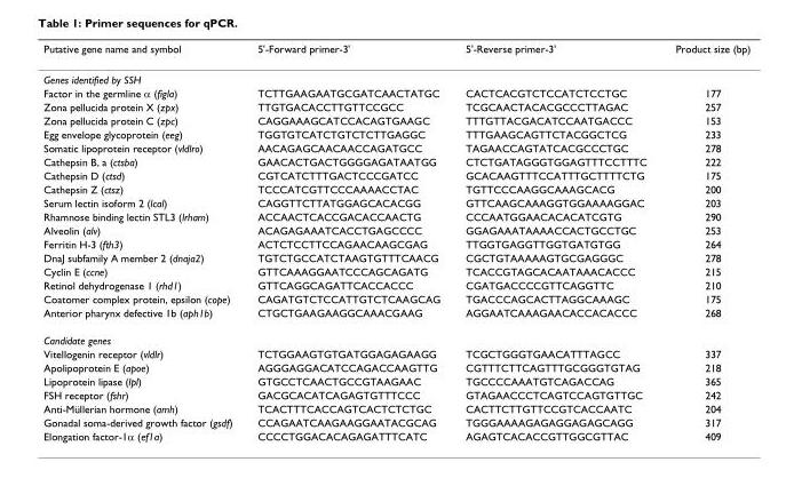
<table><thead><tr><td>Putative gene name and symbol</td><td>5&#x27;-Forward primer-3&#x27;</td><td>5&#x27;-Reverse primer-3&#x27;</td><td>Product size (bp)</td></tr></thead><tbody><tr><td colspan="4">Genes identified by SSH</td></tr><tr><td>Factor in the germline α (figla)</td><td>TCTTGAAGAATGCGATCAACTATGC</td><td>CACTCACGTCTCCATCTCCTGC</td><td>177</td></tr><tr><td>Zona pellucida protein X (zpx)</td><td>TTGTGACACCTTGTTCCGCC</td><td>TCGCAACTACACGCCCTTAGAC</td><td>257</td></tr><tr><td>Zona pellucida protein C (zpc)</td><td>CAGGAAAGCATCCACAGTGAAGC</td><td>TTTGTTACGACATCCAATGACCC</td><td>153</td></tr><tr><td>Egg envelope glycoprotein (eeg)</td><td>TGGTGTCATCTGTCTCTTGAGGC</td><td>TTTGAAGCAGTTCTACGGCTCG</td><td>233</td></tr><tr><td>Somatic lipoprotein receptor (vldlro)</td><td>AACAGAGCAACAACCAGATGCC</td><td>TAGAACCAGTATCACGCCCTGC</td><td>278</td></tr><tr><td>Cathepsin B, a (ctsba)</td><td>GAACACTGACTGGGGAGATAATGG</td><td>CTCTGATAGGGTGGAGTTTCCTTTC</td><td>222</td></tr><tr><td>Cathepsin D (ctsd)</td><td>CGTCATCTTTGACTCCCGATCC</td><td>GCACAAGTTTCCATTTGCTTTTCTG</td><td>175</td></tr><tr><td>Cathepsin Z (ctsz)</td><td>TCCCATCGTTCCCAAAACCTAC</td><td>TGTTCCCAAGGCAAAGCACG</td><td>200</td></tr><tr><td>Serum lectin isoform 2 (lcal)</td><td>CAGGTTCTTATGGAGCACACGG</td><td>GTTCAAGCAAAGGTGGAAAAGGAC</td><td>203</td></tr><tr><td>Rhamnose binding lectin STL3 (lrham)</td><td>ACCAACTCACCGACACCAACTG</td><td>CCCAATGGAACACACATCGTG</td><td>290</td></tr><tr><td>Alveolin (alv)</td><td>ACAGAGAAATCACCTGAGCCCC</td><td>GGAGAAATAAAACCACTGCCTGC</td><td>253</td></tr><tr><td>Ferritin H-3 (fth3)</td><td>ACTCTCCTTCCAGAACAAGCGAG</td><td>TTGGTGAGGTTGGTGATGTGG</td><td>264</td></tr><tr><td>DnaJ subfamily A member 2 (dnaja2)</td><td>TGTCTGCCATCTAAGTGTTTCAACG</td><td>CGCTGTAAAAAGTGCGAGGGC</td><td>278</td></tr><tr><td>Cyclin E (ccne)</td><td>GTTCAAAGGAATCCCAGCAGATG</td><td>TCACCGTAGCACAATAAACACCC</td><td>215</td></tr><tr><td>Retinol dehydrogenase 1 (rhd1)</td><td>GTTCAGGCAGATTCACCACCC</td><td>CGATGACCCCGTTCAGGTTC</td><td>210</td></tr><tr><td>Coatomer complex protein, epsilon (cope)</td><td>CAGATGTCTCCATTGTCTCAAGCAG</td><td>TGACCCAGCACTTAGGCAAAGC</td><td>175</td></tr><tr><td>Anterior pharynx defective 1b (aph1b)</td><td>CTGCTGAAGAAGGCAAACGAAG</td><td>AGGAATCAAAGAACACCACACCC</td><td>268</td></tr><tr><td colspan="4">Candidate genes</td></tr><tr><td>Vitellogenin receptor (vldlr)</td><td>TCTGGAAGTGTGATGGAGAGAAGG</td><td>TCGCTGGGTGAACATTTAGCC</td><td>337</td></tr><tr><td>Apolipoprotein E (apoe)</td><td>AGGGAGGACATCCAGACCAAGTTG</td><td>CGTTTCTTCAGTTTGCGGGTGTAG</td><td>218</td></tr><tr><td>Lipoprotein lipase (lpl)</td><td>GTGCCTCAACTGCCGTAAGAAC</td><td>TGCCCCAAATGTCAGACCAG</td><td>365</td></tr><tr><td>FSH receptor (fshr)</td><td>GACGCACATCAGAGTGTTTCCC</td><td>GTAGAACCCTCAGTCCAGTGTTGC</td><td>242</td></tr><tr><td>Anti-Müllerian hormone (amh)</td><td>TCACTTTCACCAGTCACTCTCTGC</td><td>CACTTCTTGTTCCGTCACCAATC</td><td>204</td></tr><tr><td>Gonadal soma-derived growth factor (gsdf)</td><td>CCAGAATCAAGAAGGAATACGCAG</td><td>TGGGAAAAGAGAGGAGAGCAGG</td><td>317</td></tr><tr><td>Elongation factor-1α (ef1a)</td><td>CCCCTGGACACAGAGATTTCATC</td><td>AGAGTCACACCGTTGGCGTTAC</td><td>409</td></tr></tbody></table>